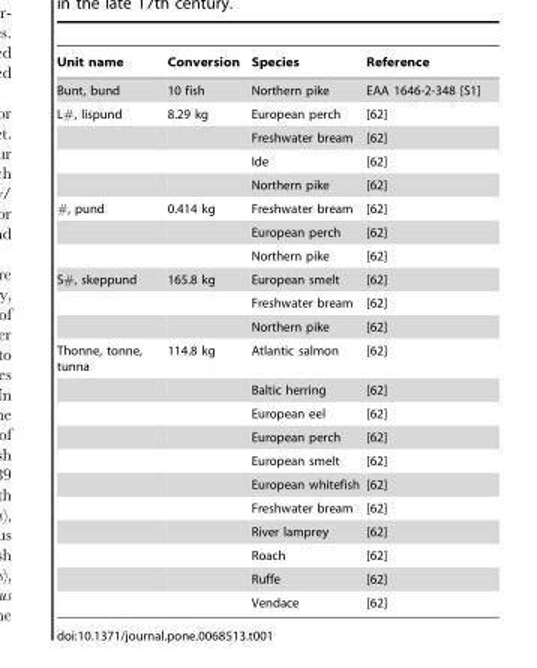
<table><thead><tr><td>Unit name</td><td>Conversion</td><td>Species</td><td>Reference</td></tr></thead><tbody><tr><td>Bunt, bund</td><td>10 fish</td><td>Northern pike</td><td>EAA 1646-2-348 [S1]</td></tr><tr><td rowspan="4">L#, lispund</td><td>8.29 kg</td><td>European perch</td><td>[62]</td></tr><tr><td></td><td>Freshwater bream</td><td>[62]</td></tr><tr><td></td><td>Ide</td><td>[62]</td></tr><tr><td></td><td>Northern pike</td><td>[62]</td></tr><tr><td rowspan="3">#, pund</td><td>0.414 kg</td><td>Freshwater bream</td><td>[62]</td></tr><tr><td></td><td>European perch</td><td>[62]</td></tr><tr><td></td><td>Northern pike</td><td>[62]</td></tr><tr><td rowspan="3">S#, skeppund</td><td>165.8 kg</td><td>European smelt</td><td>[62]</td></tr><tr><td></td><td>Freshwater bream</td><td>[62]</td></tr><tr><td></td><td>Northern pike</td><td>[62]</td></tr><tr><td rowspan="11">Thonne, tonne, tunna</td><td>114.8 kg</td><td>Atlantic salmon</td><td>[62]</td></tr><tr><td></td><td>Baltic herring</td><td>[62]</td></tr><tr><td></td><td>European eel</td><td>[62]</td></tr><tr><td></td><td>European perch</td><td>[62]</td></tr><tr><td></td><td>European smelt</td><td>[62]</td></tr><tr><td></td><td>European whitefish</td><td>[62]</td></tr><tr><td></td><td>Freshwater bream</td><td>[62]</td></tr><tr><td></td><td>River lamprey</td><td>[62]</td></tr><tr><td></td><td>Roach</td><td>[62]</td></tr><tr><td></td><td>Ruffe</td><td>[62]</td></tr><tr><td></td><td>Vendace</td><td>[62]</td></tr></tbody></table>